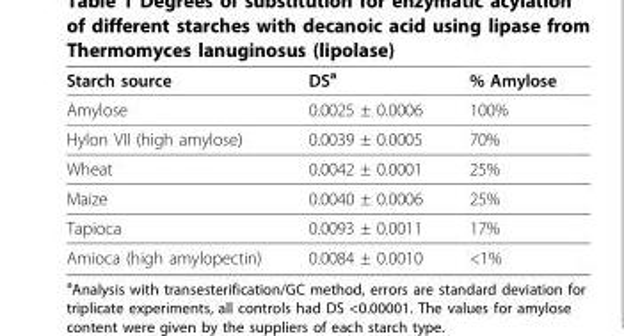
<table><thead><tr><td>Starch source</td><td>DS<sup>a</sup></td><td>% Amylose</td></tr></thead><tbody><tr><td>Amylose</td><td>0.0025 ± 0.0006</td><td>100%</td></tr><tr><td>Hylon VII (high amylose)</td><td>0.0039 ± 0.0005</td><td>70%</td></tr><tr><td>Wheat</td><td>0.0042 ± 0.0001</td><td>25%</td></tr><tr><td>Maize</td><td>0.0040 ± 0.0006</td><td>25%</td></tr><tr><td>Tapioca</td><td>0.0093 ± 0.0011</td><td>17%</td></tr><tr><td>Amioca (high amylopectin)</td><td>0.0084 ± 0.0010</td><td>&lt;1%</td></tr></tbody></table>